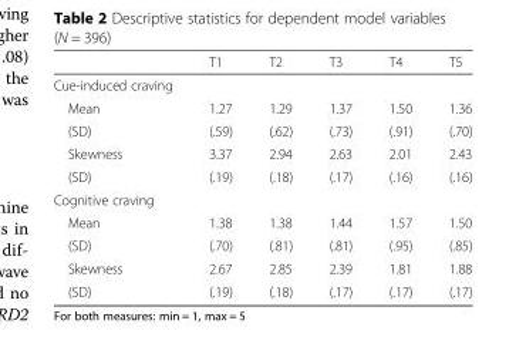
<table><thead><tr><td></td><td>T1</td><td>T2</td><td>T3</td><td>T4</td><td>T5</td></tr></thead><tbody><tr><td colspan="6">Cue-induced craving</td></tr><tr><td>Mean</td><td>1.27</td><td>1.29</td><td>1.37</td><td>1.50</td><td>1.36</td></tr><tr><td>(SD)</td><td>(.59)</td><td>(.62)</td><td>(.73)</td><td>(.91)</td><td>(.70)</td></tr><tr><td>Skewness</td><td>3.37</td><td>2.94</td><td>2.63</td><td>2.01</td><td>2.43</td></tr><tr><td>(SD)</td><td>(.19)</td><td>(.18)</td><td>(.17)</td><td>(.16)</td><td>(.16)</td></tr><tr><td colspan="6">Cognitive craving</td></tr><tr><td>Mean</td><td>1.38</td><td>1.38</td><td>1.44</td><td>1.57</td><td>1.50</td></tr><tr><td>(SD)</td><td>(.70)</td><td>(.81)</td><td>(.81)</td><td>(.95)</td><td>(.85)</td></tr><tr><td>Skewness</td><td>2.67</td><td>2.85</td><td>2.39</td><td>1.81</td><td>1.88</td></tr><tr><td>(SD)</td><td>(.19)</td><td>(.18)</td><td>(.17)</td><td>(.17)</td><td>(.17)</td></tr></tbody></table>